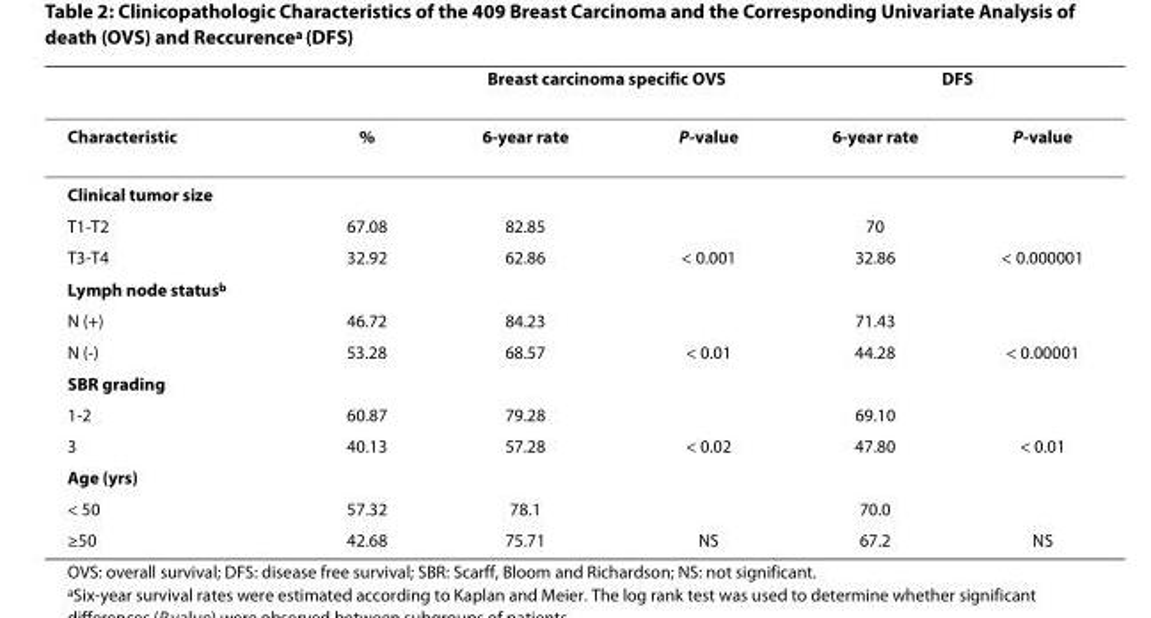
<table><thead><tr><td rowspan="2">Characteristic</td><td rowspan="2">%</td><td colspan="2">Breast carcinoma specific OVS</td><td colspan="2">DFS</td></tr><tr><td>6-year rate</td><td>P-value</td><td>6-year rate</td><td>P-value</td></tr></thead><tbody><tr><td colspan="6">Clinical tumor size</td></tr><tr><td>T1-T2</td><td>67.08</td><td>82.85</td><td></td><td>70</td><td></td></tr><tr><td>T3-T4</td><td>32.92</td><td>62.86</td><td>&lt; 0.001</td><td>32.86</td><td>&lt; 0.000001</td></tr><tr><td colspan="6">Lymph node status<sup>b</sup></td></tr><tr><td>N (+)</td><td>46.72</td><td>84.23</td><td></td><td>71.43</td><td></td></tr><tr><td>N (-)</td><td>53.28</td><td>68.57</td><td>&lt; 0.01</td><td>44.28</td><td>&lt; 0.00001</td></tr><tr><td colspan="6">SBR grading</td></tr><tr><td>1-2</td><td>60.87</td><td>79.28</td><td></td><td>69.10</td><td></td></tr><tr><td>3</td><td>40.13</td><td>57.28</td><td>&lt; 0.02</td><td>47.80</td><td>&lt; 0.01</td></tr><tr><td colspan="6">Age (yrs)</td></tr><tr><td>&lt; 50</td><td>57.32</td><td>78.1</td><td></td><td>70.0</td><td></td></tr><tr><td>≥50</td><td>42.68</td><td>75.71</td><td>NS</td><td>67.2</td><td>NS</td></tr></tbody></table>